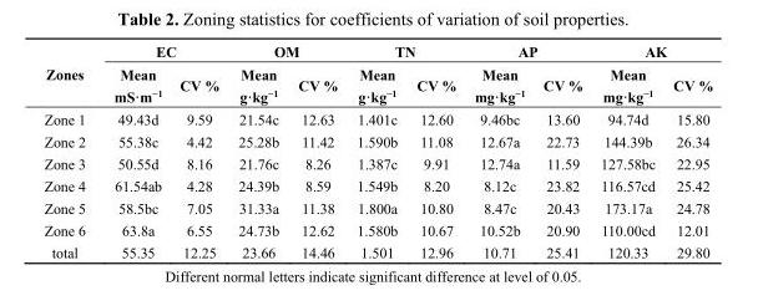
<table><thead><tr><td rowspan="2">Zones</td><td colspan="2">EC</td><td colspan="2">OM</td><td colspan="2">TN</td><td colspan="2">AP</td><td colspan="2">AK</td></tr><tr><td>Mean mS·m<sup>−1</sup></td><td>CV %</td><td>Mean g·kg<sup>−1</sup></td><td>CV %</td><td>Mean g·kg<sup>−1</sup></td><td>CV %</td><td>Mean mg·kg<sup>−1</sup></td><td>CV %</td><td>Mean mg·kg<sup>−1</sup></td><td>CV %</td></tr></thead><tbody><tr><td>Zone 1</td><td>49.43d</td><td>9.59</td><td>21.54c</td><td>12.63</td><td>1.401c</td><td>12.60</td><td>9.46bc</td><td>13.60</td><td>94.74d</td><td>15.80</td></tr><tr><td>Zone 2</td><td>55.38c</td><td>4.42</td><td>25.28b</td><td>11.42</td><td>1.590b</td><td>11.08</td><td>12.67a</td><td>22.73</td><td>144.39b</td><td>26.34</td></tr><tr><td>Zone 3</td><td>50.55d</td><td>8.16</td><td>21.76c</td><td>8.26</td><td>1.387c</td><td>9.91</td><td>12.74a</td><td>11.59</td><td>127.58bc</td><td>22.95</td></tr><tr><td>Zone 4</td><td>61.54ab</td><td>4.28</td><td>24.39b</td><td>8.59</td><td>1.549b</td><td>8.20</td><td>8.12c</td><td>23.82</td><td>116.57cd</td><td>25.42</td></tr><tr><td>Zone 5</td><td>58.5bc</td><td>7.05</td><td>31.33a</td><td>11.38</td><td>1.800a</td><td>10.80</td><td>8.47c</td><td>20.43</td><td>173.17a</td><td>24.78</td></tr><tr><td>Zone 6</td><td>63.8a</td><td>6.55</td><td>24.73b</td><td>12.62</td><td>1.580b</td><td>10.67</td><td>10.52b</td><td>20.90</td><td>110.00cd</td><td>12.01</td></tr><tr><td>total</td><td>55.35</td><td>12.25</td><td>23.66</td><td>14.46</td><td>1.501</td><td>12.96</td><td>10.71</td><td>25.41</td><td>120.33</td><td>29.80</td></tr></tbody></table>